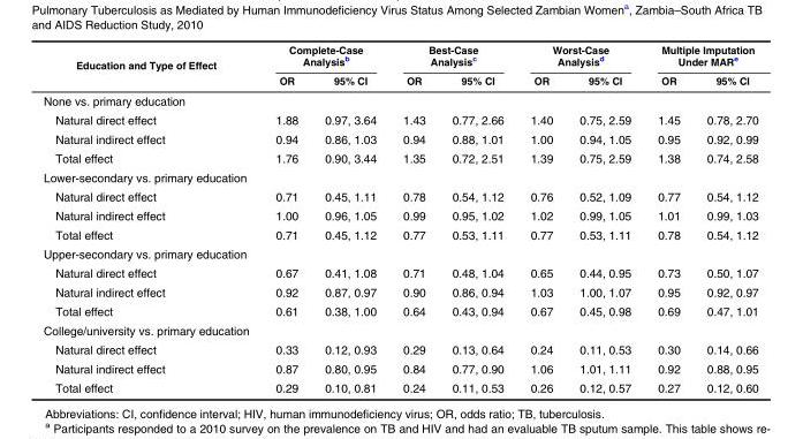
<table><thead><tr><td rowspan="2">Education and Type of Effect</td><td colspan="2">Complete-Case Analysis<sup>b</sup></td><td colspan="2">Best-Case Analysis<sup>c</sup></td><td colspan="2">Worst-Case Analysis<sup>d</sup></td><td colspan="2">Multiple Imputation Under MAR<sup>e</sup></td></tr><tr><td>OR</td><td>95% CI</td><td>OR</td><td>95% CI</td><td>OR</td><td>95% CI</td><td>OR</td><td>95% CI</td></tr></thead><tbody><tr><td colspan="9">None vs. primary education</td></tr><tr><td>Natural direct effect</td><td>1.88</td><td>0.97, 3.64</td><td>1.43</td><td>0.77, 2.66</td><td>1.40</td><td>0.75, 2.59</td><td>1.45</td><td>0.78, 2.70</td></tr><tr><td>Natural indirect effect</td><td>0.94</td><td>0.86, 1.03</td><td>0.94</td><td>0.88, 1.01</td><td>1.00</td><td>0.94, 1.05</td><td>0.95</td><td>0.92, 0.99</td></tr><tr><td>Total effect</td><td>1.76</td><td>0.90, 3.44</td><td>1.35</td><td>0.72, 2.51</td><td>1.39</td><td>0.75, 2.59</td><td>1.38</td><td>0.74, 2.58</td></tr><tr><td colspan="9">Lower-secondary vs. primary education</td></tr><tr><td>Natural direct effect</td><td>0.71</td><td>0.45, 1.11</td><td>0.78</td><td>0.54, 1.12</td><td>0.76</td><td>0.52, 1.09</td><td>0.77</td><td>0.54, 1.12</td></tr><tr><td>Natural indirect effect</td><td>1.00</td><td>0.96, 1.05</td><td>0.99</td><td>0.95, 1.02</td><td>1.02</td><td>0.99, 1.05</td><td>1.01</td><td>0.99, 1.03</td></tr><tr><td>Total effect</td><td>0.71</td><td>0.45, 1.12</td><td>0.77</td><td>0.53, 1.11</td><td>0.77</td><td>0.53, 1.11</td><td>0.78</td><td>0.54, 1.12</td></tr><tr><td colspan="9">Upper-secondary vs. primary education</td></tr><tr><td>Natural direct effect</td><td>0.67</td><td>0.41, 1.08</td><td>0.71</td><td>0.48, 1.04</td><td>0.65</td><td>0.44, 0.95</td><td>0.73</td><td>0.50, 1.07</td></tr><tr><td>Natural indirect effect</td><td>0.92</td><td>0.87, 0.97</td><td>0.90</td><td>0.86, 0.94</td><td>1.03</td><td>1.00, 1.07</td><td>0.95</td><td>0.92, 0.97</td></tr><tr><td>Total effect</td><td>0.61</td><td>0.38, 1.00</td><td>0.64</td><td>0.43, 0.94</td><td>0.67</td><td>0.45, 0.98</td><td>0.69</td><td>0.47, 1.01</td></tr><tr><td colspan="9">College/university vs. primary education</td></tr><tr><td>Natural direct effect</td><td>0.33</td><td>0.12, 0.93</td><td>0.29</td><td>0.13, 0.64</td><td>0.24</td><td>0.11, 0.53</td><td>0.30</td><td>0.14, 0.66</td></tr><tr><td>Natural indirect effect</td><td>0.87</td><td>0.80, 0.95</td><td>0.84</td><td>0.77, 0.90</td><td>1.06</td><td>1.01, 1.11</td><td>0.92</td><td>0.88, 0.95</td></tr><tr><td>Total effect</td><td>0.29</td><td>0.10, 0.81</td><td>0.24</td><td>0.11, 0.53</td><td>0.26</td><td>0.12, 0.57</td><td>0.27</td><td>0.12, 0.60</td></tr></tbody></table>